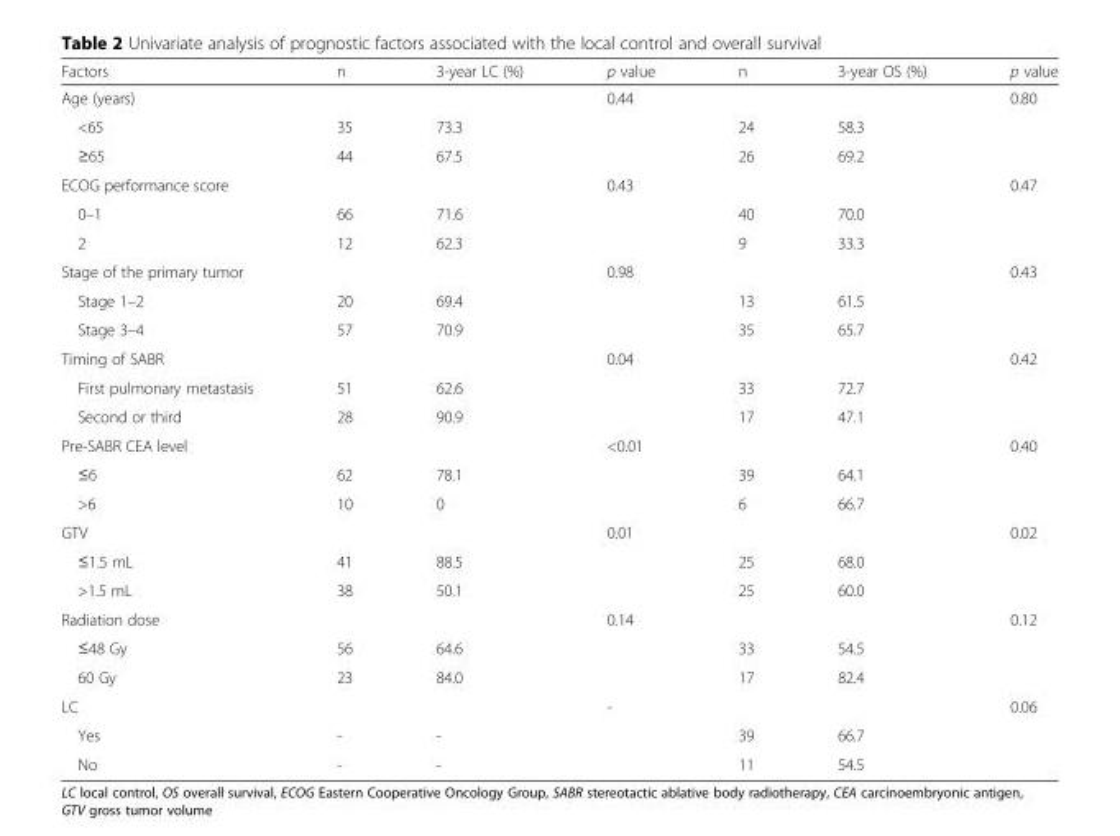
<table><thead><tr><td>Factors</td><td>n</td><td>3-year LC (%)</td><td>p value</td><td>n</td><td>3-year OS (%)</td><td>p value</td></tr></thead><tbody><tr><td>Age (years)</td><td></td><td></td><td>0.44</td><td></td><td></td><td>0.80</td></tr><tr><td>&lt;65</td><td>35</td><td>73.3</td><td></td><td>24</td><td>58.3</td><td></td></tr><tr><td>≥65</td><td>44</td><td>67.5</td><td></td><td>26</td><td>69.2</td><td></td></tr><tr><td>ECOG performance score</td><td></td><td></td><td>0.43</td><td></td><td></td><td>0.47</td></tr><tr><td>0–1</td><td>66</td><td>71.6</td><td></td><td>40</td><td>70.0</td><td></td></tr><tr><td>2</td><td>12</td><td>62.3</td><td></td><td>9</td><td>33.3</td><td></td></tr><tr><td>Stage of the primary tumor</td><td></td><td></td><td>0.98</td><td></td><td></td><td>0.43</td></tr><tr><td>Stage 1–2</td><td>20</td><td>69.4</td><td></td><td>13</td><td>61.5</td><td></td></tr><tr><td>Stage 3–4</td><td>57</td><td>70.9</td><td></td><td>35</td><td>65.7</td><td></td></tr><tr><td>Timing of SABR</td><td></td><td></td><td>0.04</td><td></td><td></td><td>0.42</td></tr><tr><td>First pulmonary metastasis</td><td>51</td><td>62.6</td><td></td><td>33</td><td>72.7</td><td></td></tr><tr><td>Second or third</td><td>28</td><td>90.9</td><td></td><td>17</td><td>47.1</td><td></td></tr><tr><td>Pre-SABR CEA level</td><td></td><td></td><td>&lt;0.01</td><td></td><td></td><td>0.40</td></tr><tr><td>≤6</td><td>62</td><td>78.1</td><td></td><td>39</td><td>64.1</td><td></td></tr><tr><td>&gt;6</td><td>10</td><td>0</td><td></td><td>6</td><td>66.7</td><td></td></tr><tr><td>GTV</td><td></td><td></td><td>0.01</td><td></td><td></td><td>0.02</td></tr><tr><td>≤1.5 mL</td><td>41</td><td>88.5</td><td></td><td>25</td><td>68.0</td><td></td></tr><tr><td>&gt;1.5 mL</td><td>38</td><td>50.1</td><td></td><td>25</td><td>60.0</td><td></td></tr><tr><td>Radiation dose</td><td></td><td></td><td>0.14</td><td></td><td></td><td>0.12</td></tr><tr><td>≤48 Gy</td><td>56</td><td>64.6</td><td></td><td>33</td><td>54.5</td><td></td></tr><tr><td>60 Gy</td><td>23</td><td>84.0</td><td></td><td>17</td><td>82.4</td><td></td></tr><tr><td>LC</td><td></td><td></td><td>-</td><td></td><td></td><td>0.06</td></tr><tr><td>Yes</td><td>-</td><td>-</td><td></td><td>39</td><td>66.7</td><td></td></tr><tr><td>No</td><td>-</td><td>-</td><td></td><td>11</td><td>54.5</td><td></td></tr></tbody></table>